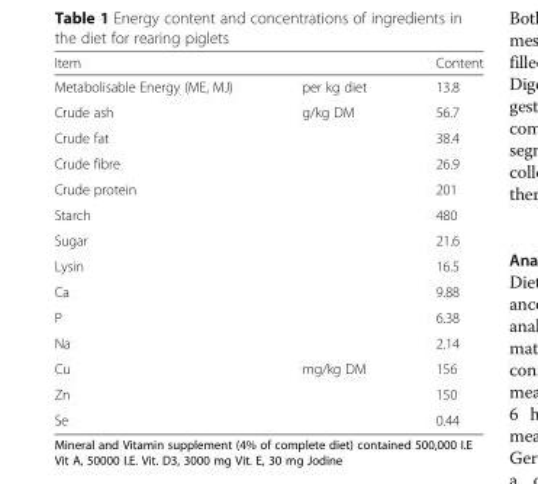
<table><thead><tr><td>Item</td><td></td><td>Content</td></tr></thead><tbody><tr><td>Metabolisable Energy (ME, MJ)</td><td>per kg diet</td><td>13.8</td></tr><tr><td>Crude ash</td><td>g/kg DM</td><td>56.7</td></tr><tr><td>Crude fat</td><td></td><td>38.4</td></tr><tr><td>Crude fibre</td><td></td><td>26.9</td></tr><tr><td>Crude protein</td><td></td><td>201</td></tr><tr><td>Starch</td><td></td><td>480</td></tr><tr><td>Sugar</td><td></td><td>21.6</td></tr><tr><td>Lysin</td><td></td><td>16.5</td></tr><tr><td>Ca</td><td></td><td>9.88</td></tr><tr><td>P</td><td></td><td>6.38</td></tr><tr><td>Na</td><td></td><td>2.14</td></tr><tr><td>Cu</td><td>mg/kg DM</td><td>156</td></tr><tr><td>Zn</td><td></td><td>150</td></tr><tr><td>Se</td><td></td><td>0.44</td></tr></tbody></table>